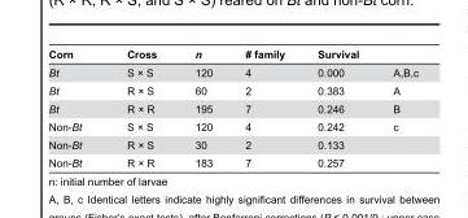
<table><thead><tr><td>Corn</td><td>Cross</td><td>n</td><td># family</td><td>Survival</td><td></td></tr></thead><tbody><tr><td>Bt</td><td>S × S</td><td>120</td><td>4</td><td>0.000</td><td>A,B,c</td></tr><tr><td>Bt</td><td>R × S</td><td>60</td><td>2</td><td>0.383</td><td>A</td></tr><tr><td>Bt</td><td>R × R</td><td>195</td><td>7</td><td>0.246</td><td>B</td></tr><tr><td>Non-Bt</td><td>S × S</td><td>120</td><td>4</td><td>0.242</td><td>c</td></tr><tr><td>Non-Bt</td><td>R × S</td><td>30</td><td>2</td><td>0.133</td><td></td></tr><tr><td>Non-Bt</td><td>R × R</td><td>183</td><td>7</td><td>0.257</td><td></td></tr></tbody></table>